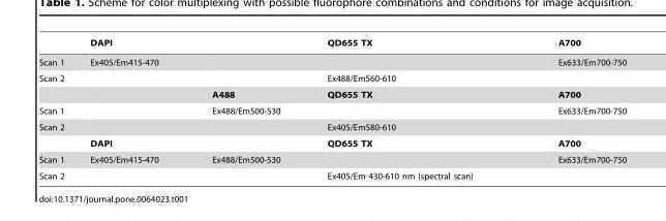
<table><thead><tr><td></td><td>DAPI</td><td></td><td>QD655 TX</td><td>A700</td></tr></thead><tbody><tr><td>Scan 1</td><td>Ex405/Em415-470</td><td></td><td></td><td>Ex633/Em700-750</td></tr><tr><td rowspan="2">Scan 2</td><td></td><td></td><td>Ex488/Em560-610</td><td></td></tr><tr><td></td><td>A488</td><td>QD655 TX</td><td>A700</td></tr><tr><td>Scan 1</td><td></td><td>Ex488/Em500-530</td><td></td><td>Ex633/Em700-750</td></tr><tr><td rowspan="2">Scan 2</td><td></td><td></td><td>Ex405/Em580-610</td><td></td></tr><tr><td>DAPI</td><td></td><td>QD655 TX</td><td>A700</td></tr><tr><td>Scan 1</td><td>Ex405/Em415-470</td><td>Ex488/Em500-530</td><td></td><td>Ex633/Em700-750</td></tr><tr><td>Scan 2</td><td></td><td></td><td>Ex405/Em 430-610 nm (spectral scan)</td><td></td></tr></tbody></table>